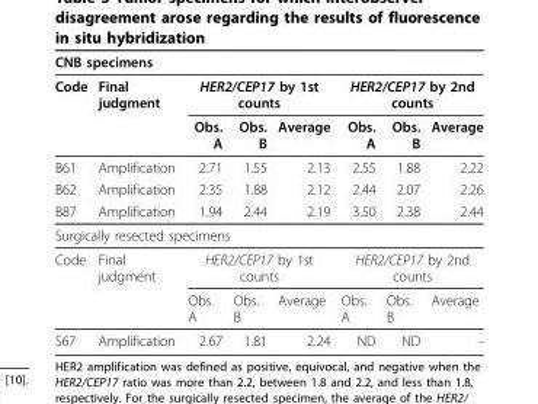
<table><thead><tr><td colspan="8">CNB specimens</td></tr><tr><td rowspan="2">Code</td><td rowspan="2">Final judgment</td><td colspan="3">HER2/CEP17 by 1st counts</td><td colspan="3">HER2/CEP17 by 2nd counts</td></tr><tr><td>Obs. A</td><td>Obs. B</td><td>Average</td><td>Obs. A</td><td>Obs. B</td><td>Average</td></tr></thead><tbody><tr><td>B61</td><td>Amplification</td><td>2.71</td><td>1.55</td><td>2.13</td><td>2.55</td><td>1.88</td><td>2.22</td></tr><tr><td>B62</td><td>Amplification</td><td>2.35</td><td>1.88</td><td>2.12</td><td>2.44</td><td>2.07</td><td>2.26</td></tr><tr><td>B87</td><td>Amplification</td><td>1.94</td><td>2.44</td><td>2.19</td><td>3.50</td><td>2.38</td><td>2.44</td></tr><tr><td colspan="8">Surgically resected specimens</td></tr><tr><td rowspan="2">Code</td><td>Final judgment</td><td colspan="3">HER2/CEP17 by 1st counts</td><td colspan="3">HER2/CEP17 by 2nd counts</td></tr><tr><td></td><td>Obs. A</td><td>Obs. B</td><td>Average</td><td>Obs. A</td><td>Obs. B</td><td>Average</td></tr><tr><td>S67</td><td>Amplification</td><td>2.67</td><td>1.81</td><td>2.24</td><td>ND</td><td>ND</td><td>-</td></tr></tbody></table>